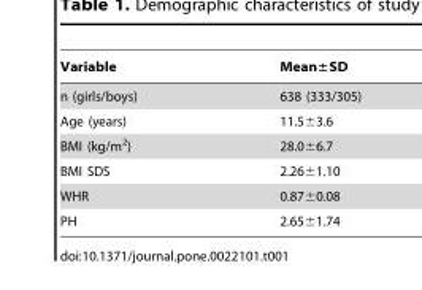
<table><thead><tr><td>Variable</td><td>Mean±SD</td></tr></thead><tbody><tr><td>n (girls/boys)</td><td>638 (333/305)</td></tr><tr><td>Age (years)</td><td>11.5±3.6</td></tr><tr><td>BMI (kg/m<sup>2</sup>)</td><td>28.0±6.7</td></tr><tr><td>BMI SDS</td><td>2.26±1.10</td></tr><tr><td>WHR</td><td>0.87±0.08</td></tr><tr><td>PH</td><td>2.65±1.74</td></tr></tbody></table>